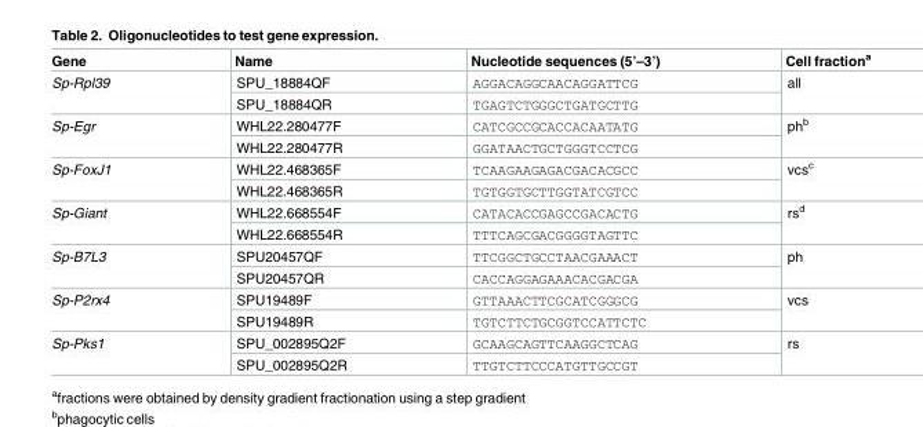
<table><thead><tr><td>Gene</td><td>Name</td><td>Nucleotide sequences (5’–3’)</td><td>Cell fraction<sup>a</sup></td></tr></thead><tbody><tr><td rowspan="2">Sp-Rpl39</td><td>SPU_18884QF</td><td>AGGACAGGCAACAGGATTCG</td><td rowspan="2">all</td></tr><tr><td>SPU_18884QR</td><td>TGAGTCTGGGCTGATGCTTG</td></tr><tr><td rowspan="2">Sp-Egr</td><td>WHL22.280477F</td><td>CATCGCCGCACCACAATATG</td><td rowspan="2">ph<sup>b</sup></td></tr><tr><td>WHL22.280477R</td><td>GGATAACTGCTGGGTCCTCG</td></tr><tr><td rowspan="2">Sp-FoxJ1</td><td>WHL22.468365F</td><td>TCAAGAAGAGACGACACGCC</td><td rowspan="2">vcs<sup>c</sup></td></tr><tr><td>WHL22.468365R</td><td>TGTGGTGCTTGGTATCGTCC</td></tr><tr><td rowspan="2">Sp-Giant</td><td>WHL22.668554F</td><td>CATACACCGAGCCGACACTG</td><td rowspan="2">rs<sup>d</sup></td></tr><tr><td>WHL22.668554R</td><td>TTTCAGCGACGGGGTAGTTC</td></tr><tr><td rowspan="2">Sp-B7L3</td><td>SPU20457QF</td><td>TTCGGCTGCCTAACGAAACT</td><td rowspan="2">ph</td></tr><tr><td>SPU20457QR</td><td>CACCAGGAGAAACACGACGA</td></tr><tr><td rowspan="2">Sp-P2rx4</td><td>SPU19489F</td><td>GTTAAACTTCGCATCGGGCG</td><td rowspan="2">vcs</td></tr><tr><td>SPU19489R</td><td>TGTCTTCTGCGGTCCATTCTC</td></tr><tr><td rowspan="2">Sp-Pks1</td><td>SPU_002895Q2F</td><td>GCAAGCAGTTCAAGGCTCAG</td><td rowspan="2">rs</td></tr><tr><td>SPU_002895Q2R</td><td>TTGTCTTCCCATGTTGCCGT</td></tr></tbody></table>